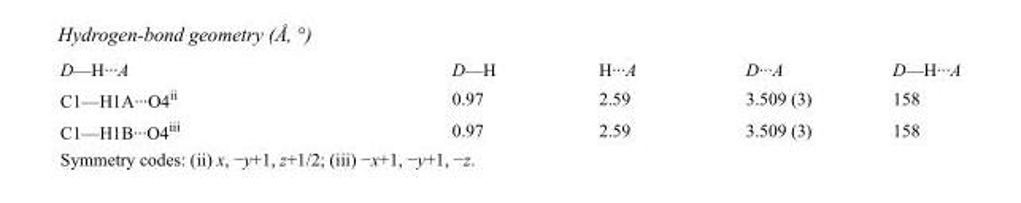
<table><tbody><tr><td>D—H···A</td><td>D—H</td><td>H···A</td><td>D···A</td><td>D—H···A</td></tr><tr><td>C1—H1A···O4<sup>ii</sup></td><td>0.97</td><td>2.59</td><td>3.509 (3)</td><td>158</td></tr><tr><td>C1—H1B···O4<sup>iii</sup></td><td>0.97</td><td>2.59</td><td>3.509 (3)</td><td>158</td></tr></tbody></table>